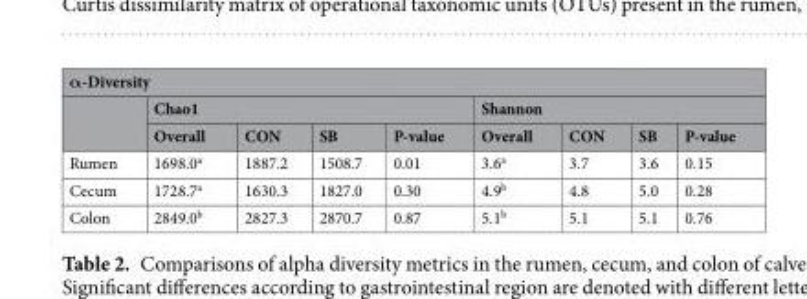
<table><thead><tr><td colspan="9">α-Diversity</td></tr><tr><td rowspan="2"></td><td colspan="4">Chao1</td><td colspan="4">Shannon</td></tr><tr><td>Overall</td><td>CON</td><td>SB</td><td>P-value</td><td>Overall</td><td>CON</td><td>SB</td><td>P-value</td></tr></thead><tbody><tr><td>Rumen</td><td>1698.0<sup>a</sup></td><td>1887.2</td><td>1508.7</td><td>0.01</td><td>3.6<sup>a</sup></td><td>3.7</td><td>3.6</td><td>0.15</td></tr><tr><td>Cecum</td><td>1728.7<sup>a</sup></td><td>1630.3</td><td>1827.0</td><td>0.30</td><td>4.9<sup>b</sup></td><td>4.8</td><td>5.0</td><td>0.28</td></tr><tr><td>Colon</td><td>2849.0<sup>b</sup></td><td>2827.3</td><td>2870.7</td><td>0.87</td><td>5.1<sup>b</sup></td><td>5.1</td><td>5.1</td><td>0.76</td></tr></tbody></table>